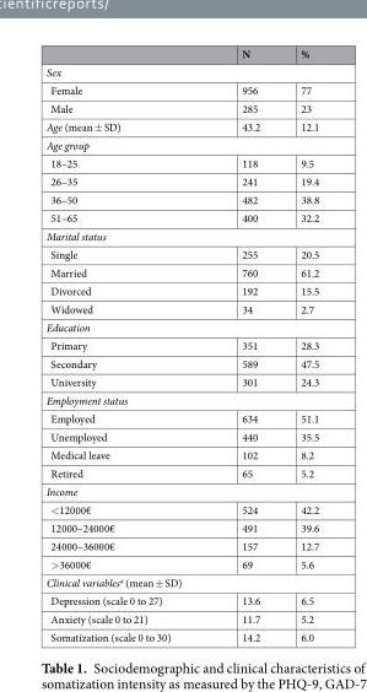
<table><thead><tr><td></td><td>N</td><td>%</td></tr></thead><tbody><tr><td colspan="3">Sex</td></tr><tr><td>Female</td><td>956</td><td>77</td></tr><tr><td>Male</td><td>285</td><td>23</td></tr><tr><td>Age (mean ± SD)</td><td>43.2</td><td>12.1</td></tr><tr><td colspan="3">Age group</td></tr><tr><td>18–25</td><td>118</td><td>9.5</td></tr><tr><td>26–35</td><td>241</td><td>19.4</td></tr><tr><td>36–50</td><td>482</td><td>38.8</td></tr><tr><td>51–65</td><td>400</td><td>32.2</td></tr><tr><td colspan="3">Marital status</td></tr><tr><td>Single</td><td>255</td><td>20.5</td></tr><tr><td>Married</td><td>760</td><td>61.2</td></tr><tr><td>Divorced</td><td>192</td><td>15.5</td></tr><tr><td>Widowed</td><td>34</td><td>2.7</td></tr><tr><td colspan="3">Education</td></tr><tr><td>Primary</td><td>351</td><td>28.3</td></tr><tr><td>Secondary</td><td>589</td><td>47.5</td></tr><tr><td>University</td><td>301</td><td>24.3</td></tr><tr><td colspan="3">Employment status</td></tr><tr><td>Employed</td><td>634</td><td>51.1</td></tr><tr><td>Unemployed</td><td>440</td><td>35.5</td></tr><tr><td>Medical leave</td><td>102</td><td>8.2</td></tr><tr><td>Retired</td><td>65</td><td>5.2</td></tr><tr><td colspan="3">Income</td></tr><tr><td>&lt;12000€</td><td>524</td><td>42.2</td></tr><tr><td>12000–24000€</td><td>491</td><td>39.6</td></tr><tr><td>24000–36000€</td><td>157</td><td>12.7</td></tr><tr><td>&gt;36000€</td><td>69</td><td>5.6</td></tr><tr><td colspan="3">Clinical variables<sup>a</sup> (mean ± SD)</td></tr><tr><td>Depression (scale 0 to 27)</td><td>13.6</td><td>6.5</td></tr><tr><td>Anxiety (scale 0 to 21)</td><td>11.7</td><td>5.2</td></tr><tr><td>Somatization (scale 0 to 30)</td><td>14.2</td><td>6.0</td></tr></tbody></table>